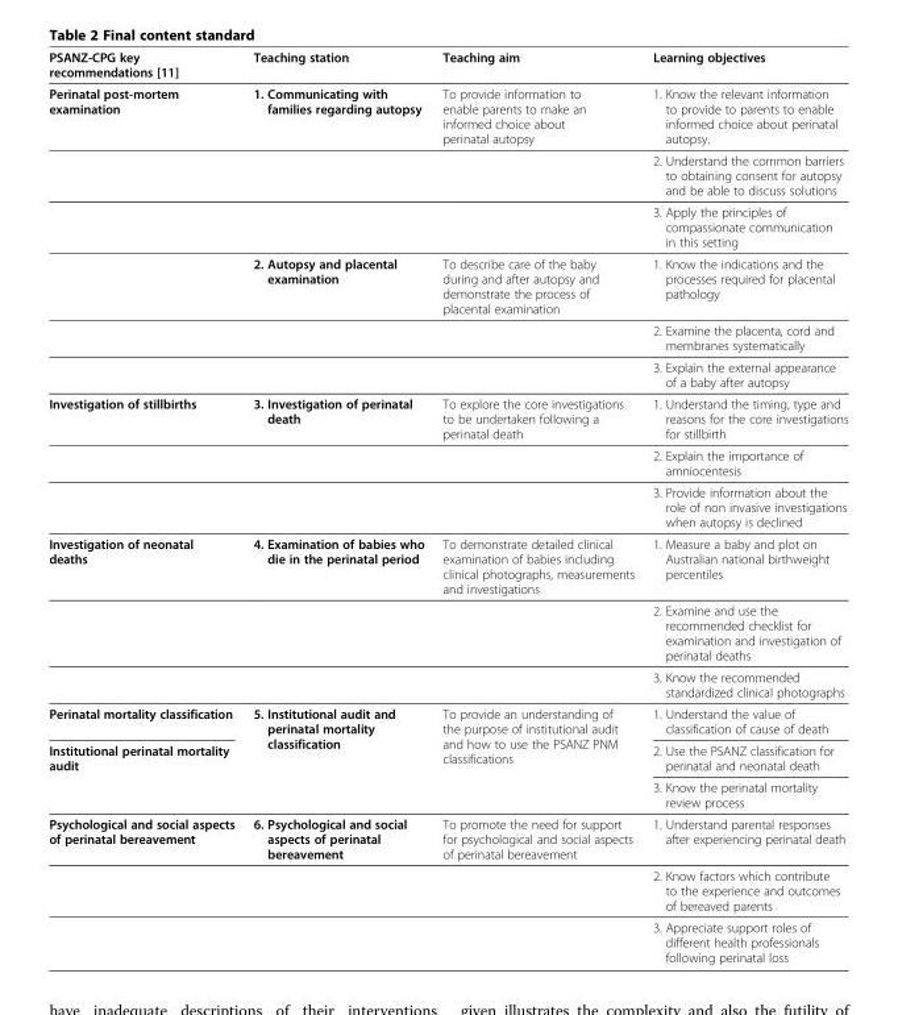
<table><thead><tr><td>PSANZ-CPG key recommendations [11]</td><td>Teaching station</td><td>Teaching aim</td><td>Learning objectives</td></tr></thead><tbody><tr><td rowspan="6">Perinatal post-mortem examination</td><td>1. Communicating with families regarding autopsy</td><td>To provide information to enable parents to make an informed choice about perinatal autopsy</td><td>1. Know the relevant information to provide to parents to enable informed choice about perinatal autopsy.</td></tr><tr><td></td><td></td><td>2. Understand the common barriers to obtaining consent for autopsy and be able to discuss solutions</td></tr><tr><td></td><td></td><td>3. Apply the principles of compassionate communication in this setting</td></tr><tr><td>2. Autopsy and placental examination</td><td>To describe care of the baby during and after autopsy and demonstrate the process of placental examination</td><td>1. Know the indications and the processes required for placental pathology</td></tr><tr><td></td><td></td><td>2. Examine the placenta, cord and membranes systematically</td></tr><tr><td></td><td></td><td>3. Explain the external appearance of a baby after autopsy</td></tr><tr><td rowspan="3">Investigation of stillbirths</td><td>3. Investigation of perinatal death</td><td>To explore the core investigations to be undertaken following a perinatal death</td><td>1. Understand the timing, type and reasons for the core investigations for stillbirth</td></tr><tr><td></td><td></td><td>2. Explain the importance of amniocentesis</td></tr><tr><td></td><td></td><td>3. Provide information about the role of non invasive investigations when autopsy is declined</td></tr><tr><td rowspan="3">Investigation of neonatal deaths</td><td>4. Examination of babies who die in the perinatal period</td><td>To demonstrate detailed clinical examination of babies including clinical photographs, measurements and investigations</td><td>1. Measure a baby and plot on Australian national birthweight percentiles</td></tr><tr><td></td><td></td><td>2. Examine and use the recommended checklist for examination and investigation of perinatal deaths</td></tr><tr><td></td><td></td><td>3. Know the recommended standardized clinical photographs</td></tr><tr><td>Perinatal mortality classification</td><td rowspan="3">5. Institutional audit and perinatal mortality classification</td><td rowspan="3">To provide an understanding of the purpose of institutional audit and how to use the PSANZ PNM classifications</td><td>1. Understand the value of classification of cause of death</td></tr><tr><td rowspan="2">Institutional perinatal mortality audit</td><td>2. Use the PSANZ classification for perinatal and neonatal death</td></tr><tr><td>3. Know the perinatal mortality review process</td></tr><tr><td rowspan="3">Psychological and social aspects of perinatal bereavement</td><td>6. Psychological and social aspects of perinatal bereavement</td><td>To promote the need for support for psychological and social aspects of perinatal bereavement</td><td>1. Understand parental responses after experiencing perinatal death</td></tr><tr><td></td><td></td><td>2. Know factors which contribute to the experience and outcomes of bereaved parents</td></tr><tr><td></td><td></td><td>3. Appreciate support roles of different health professionals following perinatal loss</td></tr></tbody></table>